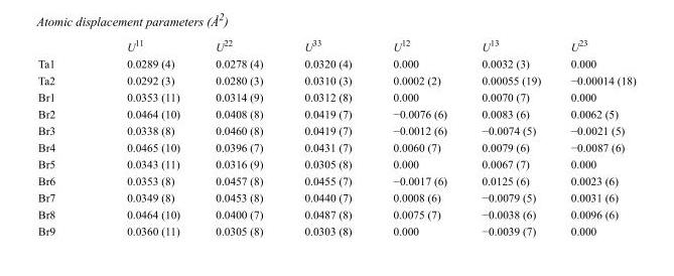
<table><thead><tr><td></td><td>U<sup>11</sup></td><td>U<sup>22</sup></td><td>U<sup>33</sup></td><td>U<sup>12</sup></td><td>U<sup>13</sup></td><td>U<sup>23</sup></td></tr></thead><tbody><tr><td>Ta1</td><td>0.0289 (4)</td><td>0.0278 (4)</td><td>0.0320 (4)</td><td>0.000</td><td>0.0032 (3)</td><td>0.000</td></tr><tr><td>Ta2</td><td>0.0292 (3)</td><td>0.0280 (3)</td><td>0.0310 (3)</td><td>0.0002 (2)</td><td>0.00055 (19)</td><td>−0.00014 (18)</td></tr><tr><td>Br1</td><td>0.0353 (11)</td><td>0.0314 (9)</td><td>0.0312 (8)</td><td>0.000</td><td>0.0070 (7)</td><td>0.000</td></tr><tr><td>Br2</td><td>0.0464 (10)</td><td>0.0408 (8)</td><td>0.0419 (7)</td><td>−0.0076 (6)</td><td>0.0083 (6)</td><td>0.0062 (5)</td></tr><tr><td>Br3</td><td>0.0338 (8)</td><td>0.0460 (8)</td><td>0.0419 (7)</td><td>−0.0012 (6)</td><td>−0.0074 (5)</td><td>−0.0021 (5)</td></tr><tr><td>Br4</td><td>0.0465 (10)</td><td>0.0396 (7)</td><td>0.0431 (7)</td><td>0.0060 (7)</td><td>0.0079 (6)</td><td>−0.0087 (6)</td></tr><tr><td>Br5</td><td>0.0343 (11)</td><td>0.0316 (9)</td><td>0.0305 (8)</td><td>0.000</td><td>0.0067 (7)</td><td>0.000</td></tr><tr><td>Br6</td><td>0.0353 (8)</td><td>0.0457 (8)</td><td>0.0455 (7)</td><td>−0.0017 (6)</td><td>0.0125 (6)</td><td>0.0023 (6)</td></tr><tr><td>Br7</td><td>0.0349 (8)</td><td>0.0453 (8)</td><td>0.0440 (7)</td><td>0.0008 (6)</td><td>−0.0079 (5)</td><td>0.0031 (6)</td></tr><tr><td>Br8</td><td>0.0464 (10)</td><td>0.0400 (7)</td><td>0.0487 (8)</td><td>0.0075 (7)</td><td>−0.0038 (6)</td><td>0.0096 (6)</td></tr><tr><td>Br9</td><td>0.0360 (11)</td><td>0.0305 (8)</td><td>0.0303 (8)</td><td>0.000</td><td>−0.0039 (7)</td><td>0.000</td></tr></tbody></table>